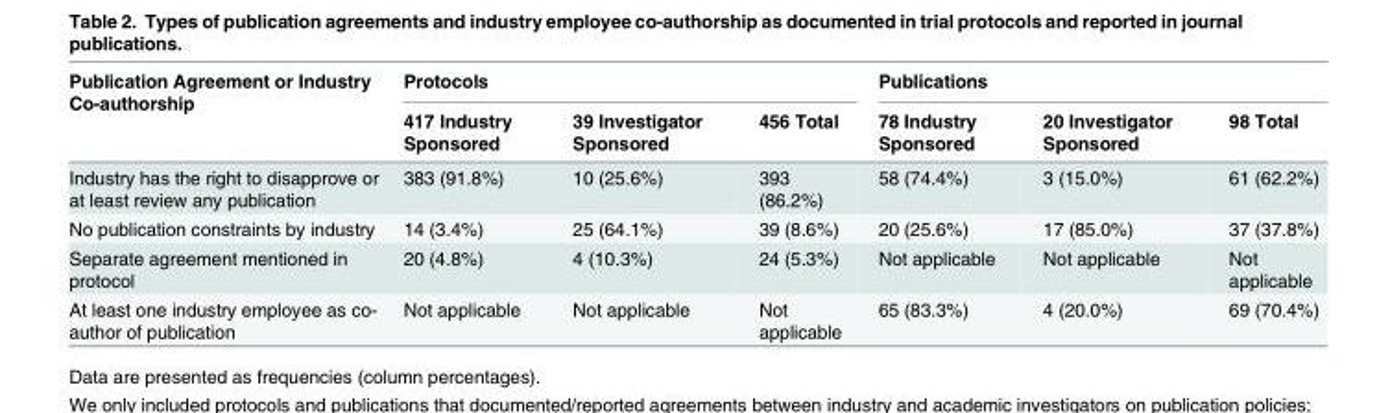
<table><thead><tr><td rowspan="2">Publication Agreement or Industry Co-authorship</td><td colspan="3">Protocols</td><td colspan="3">Publications</td></tr><tr><td>417 Industry Sponsored</td><td>39 Investigator Sponsored</td><td>456 Total</td><td>78 Industry Sponsored</td><td>20 Investigator Sponsored</td><td>98 Total</td></tr></thead><tbody><tr><td>Industry has the right to disapprove or at least review any publication</td><td>383 (91.8%)</td><td>10 (25.6%)</td><td>393 (86.2%)</td><td>58 (74.4%)</td><td>3 (15.0%)</td><td>61 (62.2%)</td></tr><tr><td>No publication constraints by industry</td><td>14 (3.4%)</td><td>25 (64.1%)</td><td>39 (8.6%)</td><td>20 (25.6%)</td><td>17 (85.0%)</td><td>37 (37.8%)</td></tr><tr><td>Separate agreement mentioned in protocol</td><td>20 (4.8%)</td><td>4 (10.3%)</td><td>24 (5.3%)</td><td>Not applicable</td><td>Not applicable</td><td>Not applicable</td></tr><tr><td>At least one industry employee as co- author of publication</td><td>Not applicable</td><td>Not applicable</td><td>Not applicable</td><td>65 (83.3%)</td><td>4 (20.0%)</td><td>69 (70.4%)</td></tr></tbody></table>